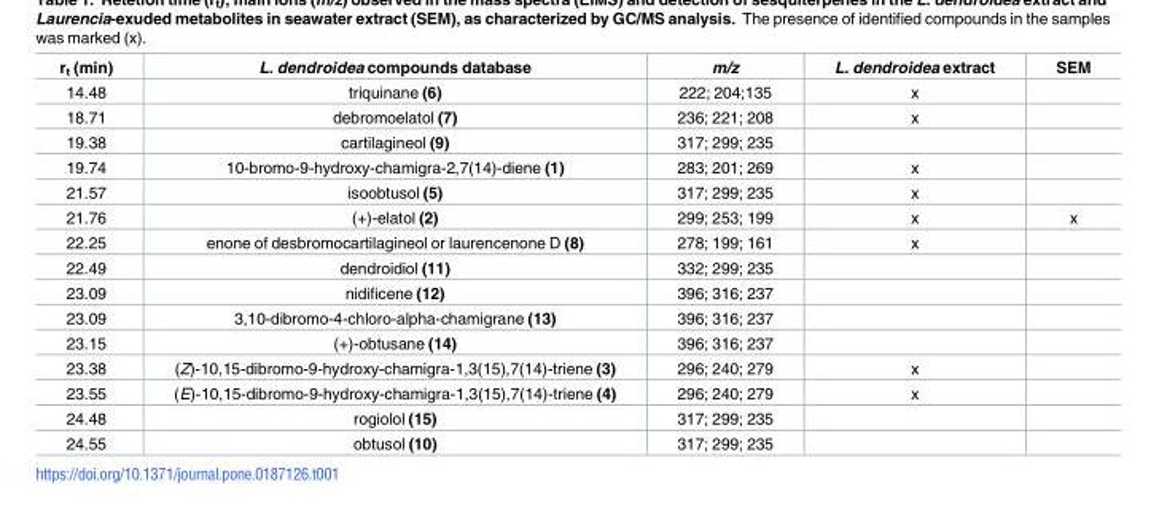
<table><thead><tr><td>r<sub>t</sub> (min)</td><td>L. dendroidea compounds database</td><td>m/z</td><td>L. dendroidea extract</td><td>SEM</td></tr></thead><tbody><tr><td>14.48</td><td>triquinane (6)</td><td>222; 204;135</td><td>x</td><td></td></tr><tr><td>18.71</td><td>debromoelatol (7)</td><td>236; 221; 208</td><td>x</td><td></td></tr><tr><td>19.38</td><td>cartilagineol (9)</td><td>317; 299; 235</td><td></td><td></td></tr><tr><td>19.74</td><td>10-bromo-9-hydroxy-chamigra-2,7(14)-diene (1)</td><td>283; 201; 269</td><td>x</td><td></td></tr><tr><td>21.57</td><td>isoobtusol (5)</td><td>317; 299; 235</td><td>x</td><td></td></tr><tr><td>21.76</td><td>(+)-elatol (2)</td><td>299; 253; 199</td><td>x</td><td>x</td></tr><tr><td>22.25</td><td>enone of desbromocartilagineol or laurencenone D (8)</td><td>278; 199; 161</td><td>x</td><td></td></tr><tr><td>22.49</td><td>dendroidiol (11)</td><td>332; 299; 235</td><td></td><td></td></tr><tr><td>23.09</td><td>nidificene (12)</td><td>396; 316; 237</td><td></td><td></td></tr><tr><td>23.09</td><td>3,10-dibromo-4-chloro-alpha-chamigrane (13)</td><td>396; 316; 237</td><td></td><td></td></tr><tr><td>23.15</td><td>(+)-obtusane (14)</td><td>396; 316; 237</td><td></td><td></td></tr><tr><td>23.38</td><td>(Z)-10,15-dibromo-9-hydroxy-chamigra-1,3(15),7(14)-triene (3)</td><td>296; 240; 279</td><td>x</td><td></td></tr><tr><td>23.55</td><td>(E)-10,15-dibromo-9-hydroxy-chamigra-1,3(15),7(14)-triene (4)</td><td>296; 240; 279</td><td>x</td><td></td></tr><tr><td>24.48</td><td>rogiolol (15)</td><td>317; 299; 235</td><td></td><td></td></tr><tr><td>24.55</td><td>obtusol (10)</td><td>317; 299; 235</td><td></td><td></td></tr></tbody></table>